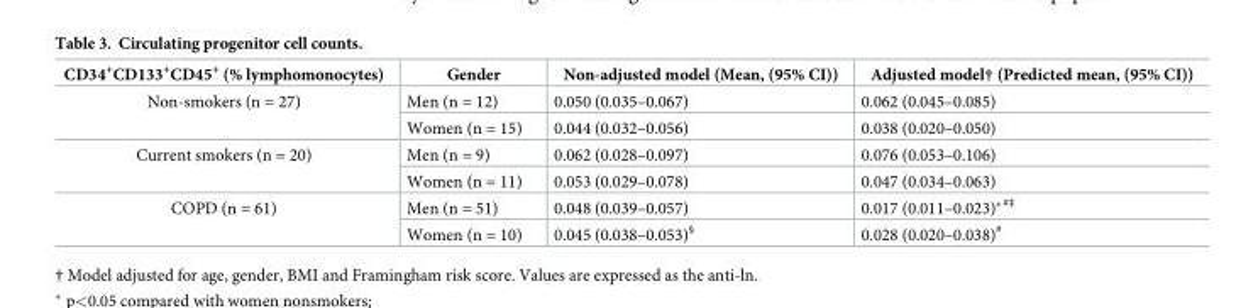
<table><thead><tr><td>CD34<sup>+</sup>CD133<sup>+</sup>CD45<sup>+</sup> (% lymphomonocytes)</td><td>Gender</td><td>Non-adjusted model (Mean, (95% CI))</td><td>Adjusted model† (Predicted mean, (95% CI))</td></tr></thead><tbody><tr><td rowspan="2">Non-smokers (n = 27)</td><td>Men (n = 12)</td><td>0.050 (0.035–0.067)</td><td>0.062 (0.045–0.085)</td></tr><tr><td>Women (n = 15)</td><td>0.044 (0.032–0.056)</td><td>0.038 (0.020–0.050)</td></tr><tr><td rowspan="2">Current smokers (n = 20)</td><td>Men (n = 9)</td><td>0.062 (0.028–0.097)</td><td>0.076 (0.053–0.106)</td></tr><tr><td>Women (n = 11)</td><td>0.053 (0.029–0.078)</td><td>0.047 (0.034–0.063)</td></tr><tr><td rowspan="2">COPD (n = 61)</td><td>Men (n = 51)</td><td>0.048 (0.039–0.057)</td><td>0.017 (0.011–0.023)*<sup>#‡</sup></td></tr><tr><td>Women (n = 10)</td><td>0.045 (0.038–0.053)<sup>§</sup></td><td>0.028 (0.020–0.038)<sup>#</sup></td></tr></tbody></table>